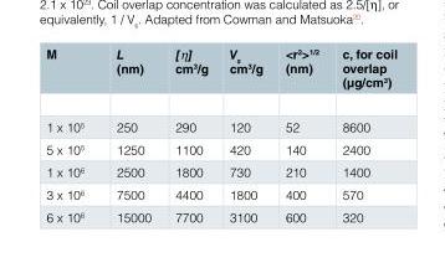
<table><thead><tr><td>M</td><td>L (nm)</td><td>[η] cm<sup>3</sup>/g</td><td>V<sub>s</sub> cm<sup>3</sup>/g</td><td>&lt;r<sup>2</sup>&gt;<sup>1/2</sup> (nm)</td><td>c, for coil overlap (µg/cm<sup>3</sup>)</td></tr></thead><tbody><tr><td>1 x 105</td><td>250</td><td>290</td><td>120</td><td>52</td><td>8600</td></tr><tr><td>5 x 105</td><td>1250</td><td>1100</td><td>420</td><td>140</td><td>2400</td></tr><tr><td>1 x 106</td><td>2500</td><td>1800</td><td>730</td><td>210</td><td>1400</td></tr><tr><td>3 x 106</td><td>7500</td><td>4400</td><td>1800</td><td>400</td><td>570</td></tr><tr><td>6 x 106</td><td>15000</td><td>7700</td><td>3100</td><td>600</td><td>320</td></tr></tbody></table>